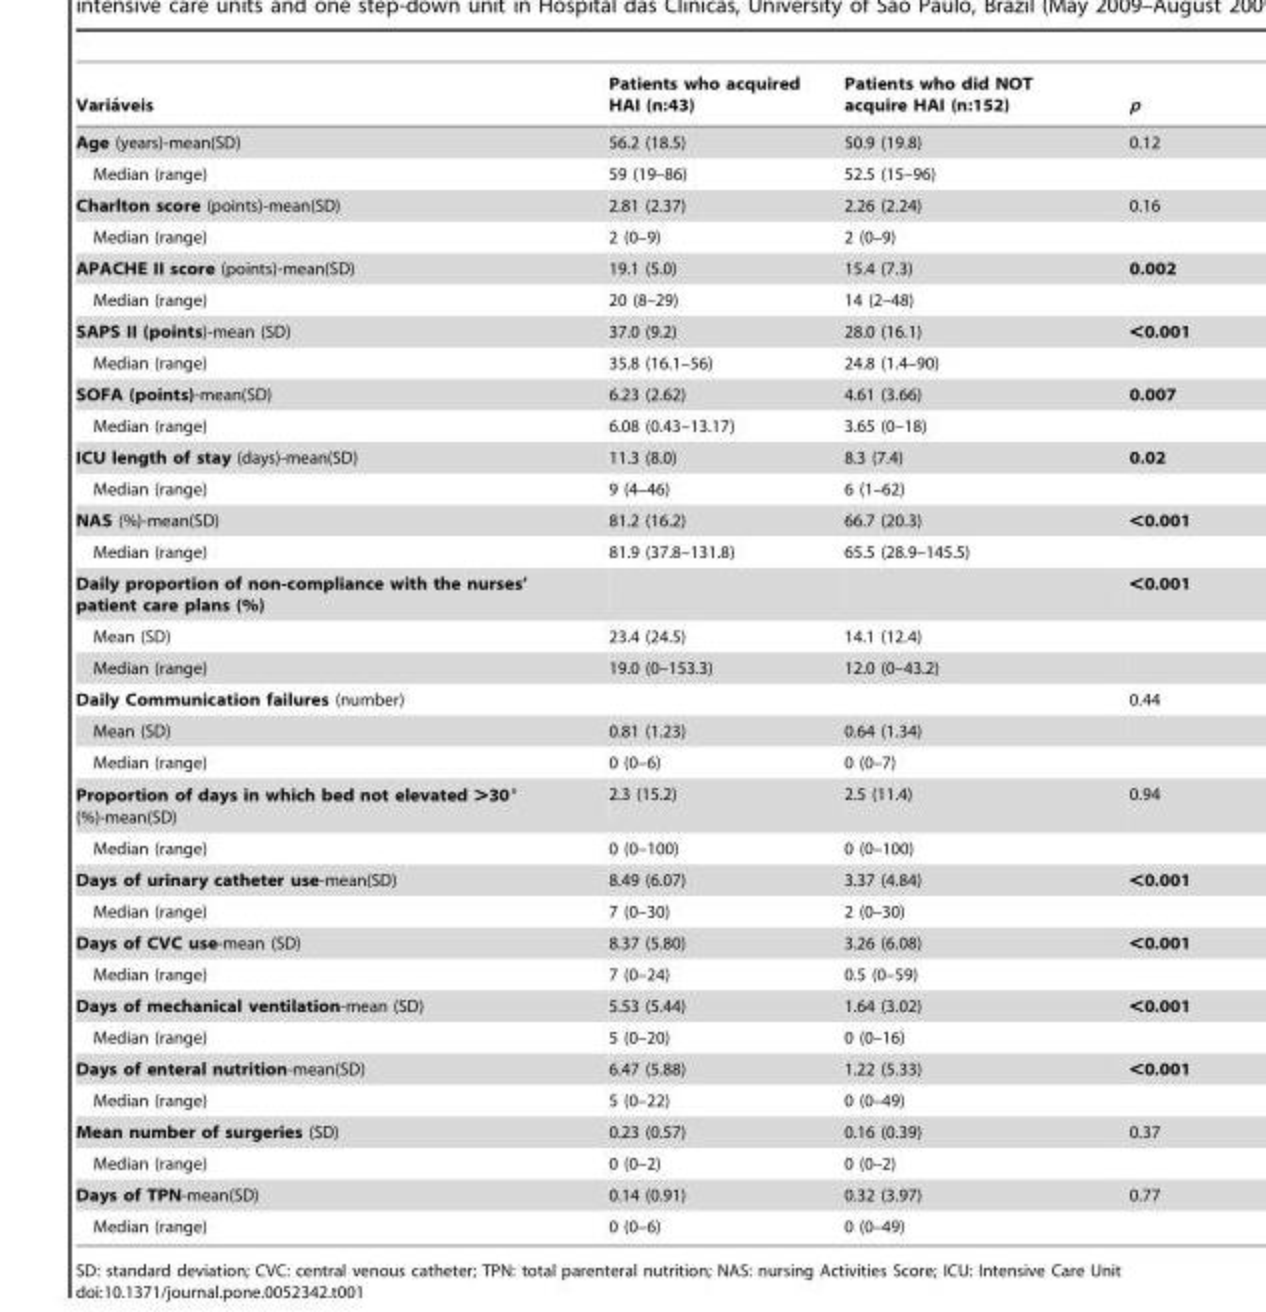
<table><thead><tr><td>Varia´veis</td><td>Patients who acquired HAI (n:43)</td><td>Patients who did NOT acquire HAI (n:152)</td><td>p</td></tr></thead><tbody><tr><td>Age (years)-mean(SD)</td><td>56.2 (18.5)</td><td>50.9 (19.8)</td><td>0.12</td></tr><tr><td>Median (range)</td><td>59 (19–86)</td><td>52.5 (15–96)</td><td></td></tr><tr><td>Charlton score (points)-mean(SD)</td><td>2.81 (2.37)</td><td>2.26 (2.24)</td><td>0.16</td></tr><tr><td>Median (range)</td><td>2 (0–9)</td><td>2 (0–9)</td><td></td></tr><tr><td>APACHE II score (points)-mean(SD)</td><td>19.1 (5.0)</td><td>15.4 (7.3)</td><td>0.002</td></tr><tr><td>Median (range)</td><td>20 (8–29)</td><td>14 (2–48)</td><td></td></tr><tr><td>SAPS II (points)-mean (SD)</td><td>37.0 (9.2)</td><td>28.0 (16.1)</td><td>&lt;0.001</td></tr><tr><td>Median (range)</td><td>35.8 (16.1–56)</td><td>24.8 (1.4–90)</td><td></td></tr><tr><td>SOFA (points)-mean(SD)</td><td>6.23 (2.62)</td><td>4.61 (3.66)</td><td>0.007</td></tr><tr><td>Median (range)</td><td>6.08 (0.43–13.17)</td><td>3.65 (0–18)</td><td></td></tr><tr><td>ICU length of stay (days)-mean(SD)</td><td>11.3 (8.0)</td><td>8.3 (7.4)</td><td>0.02</td></tr><tr><td>Median (range)</td><td>9 (4–46)</td><td>6 (1–62)</td><td></td></tr><tr><td>NAS (%)-mean(SD)</td><td>81.2 (16.2)</td><td>66.7 (20.3)</td><td>&lt;0.001</td></tr><tr><td>Median (range)</td><td>81.9 (37.8–131.8)</td><td>65.5 (28.9–145.5)</td><td></td></tr><tr><td>Daily proportion of non-compliance with the nurses’ patient care plans (%)</td><td></td><td></td><td>&lt;0.001</td></tr><tr><td>Mean (SD)</td><td>23.4 (24.5)</td><td>14.1 (12.4)</td><td></td></tr><tr><td>Median (range)</td><td>19.0 (0–153.3)</td><td>12.0 (0–43.2)</td><td></td></tr><tr><td>Daily Communication failures (number)</td><td></td><td></td><td>0.44</td></tr><tr><td>Mean (SD)</td><td>0.81 (1.23)</td><td>0.64 (1.34)</td><td></td></tr><tr><td>Median (range)</td><td>0 (0–6)</td><td>0 (0–7)</td><td></td></tr><tr><td>Proportion of days in which bed not elevated &gt;30° (%)-mean(SD)</td><td>2.3 (15.2)</td><td>2.5 (11.4)</td><td>0.94</td></tr><tr><td>Median (range)</td><td>0 (0–100)</td><td>0 (0–100)</td><td></td></tr><tr><td>Days of urinary catheter use-mean(SD)</td><td>8.49 (6.07)</td><td>3.37 (4.84)</td><td>&lt;0.001</td></tr><tr><td>Median (range)</td><td>7 (0–30)</td><td>2 (0–30)</td><td></td></tr><tr><td>Days of CVC use-mean (SD)</td><td>8.37 (5.80)</td><td>3.26 (6.08)</td><td>&lt;0.001</td></tr><tr><td>Median (range)</td><td>7 (0–24)</td><td>0.5 (0–59)</td><td></td></tr><tr><td>Days of mechanical ventilation-mean (SD)</td><td>5.53 (5.44)</td><td>1.64 (3.02)</td><td>&lt;0.001</td></tr><tr><td>Median (range)</td><td>5 (0–20)</td><td>0 (0–16)</td><td></td></tr><tr><td>Days of enteral nutrition-mean(SD)</td><td>6.47 (5.88)</td><td>1.22 (5.33)</td><td>&lt;0.001</td></tr><tr><td>Median (range)</td><td>5 (0–22)</td><td>0 (0–49)</td><td></td></tr><tr><td>Mean number of surgeries (SD)</td><td>0.23 (0.57)</td><td>0.16 (0.39)</td><td>0.37</td></tr><tr><td>Median (range)</td><td>0 (0–2)</td><td>0 (0–2)</td><td></td></tr><tr><td>Days of TPN-mean(SD)</td><td>0.14 (0.91)</td><td>0.32 (3.97)</td><td>0.77</td></tr><tr><td>Median (range)</td><td>0 (0–6)</td><td>0 (0–49)</td><td></td></tr></tbody></table>